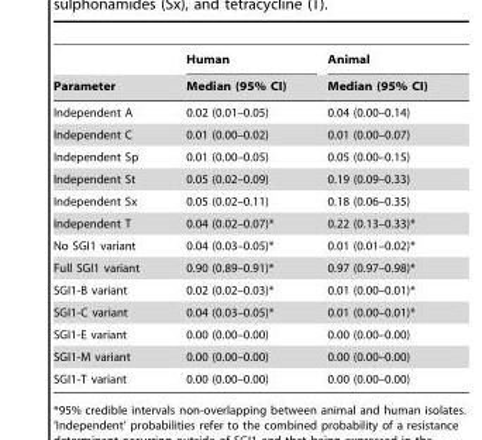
<table><thead><tr><td rowspan="2">Parameter</td><td rowspan="2">Human Median (95% CI)</td><td rowspan="2">Animal Median (95% CI)</td></tr><tr></tr></thead><tbody><tr><td>Independent A</td><td>0.02 (0.01–0.05)</td><td>0.04 (0.00–0.14)</td></tr><tr><td>Independent C</td><td>0.01 (0.00–0.02)</td><td>0.01 (0.00–0.07)</td></tr><tr><td>Independent Sp</td><td>0.01 (0.00–0.05)</td><td>0.05 (0.00–0.15)</td></tr><tr><td>Independent St</td><td>0.05 (0.02–0.09)</td><td>0.19 (0.09–0.33)</td></tr><tr><td>Independent Sx</td><td>0.05 (0.02–0.11)</td><td>0.18 (0.06–0.35)</td></tr><tr><td>Independent T</td><td>0.04 (0.02–0.07)*</td><td>0.22 (0.13–0.33)*</td></tr><tr><td>No SGI1 variant</td><td>0.04 (0.03–0.05)*</td><td>0.01 (0.01–0.02)*</td></tr><tr><td>Full SGI1 variant</td><td>0.90 (0.89–0.91)*</td><td>0.97 (0.97–0.98)*</td></tr><tr><td>SGI1-B variant</td><td>0.02 (0.02–0.03)*</td><td>0.01 (0.00–0.01)*</td></tr><tr><td>SGI1-C variant</td><td>0.04 (0.03–0.05)*</td><td>0.01 (0.00–0.01)*</td></tr><tr><td>SGI1-E variant</td><td>0.00 (0.00–0.00)</td><td>0.00 (0.00–0.00)</td></tr><tr><td>SGI1-M variant</td><td>0.00 (0.00–0.00)</td><td>0.00 (0.00–0.00)</td></tr><tr><td>SGI1-T variant</td><td>0.00 (0.00–0.00)</td><td>0.00 (0.00–0.00)</td></tr></tbody></table>